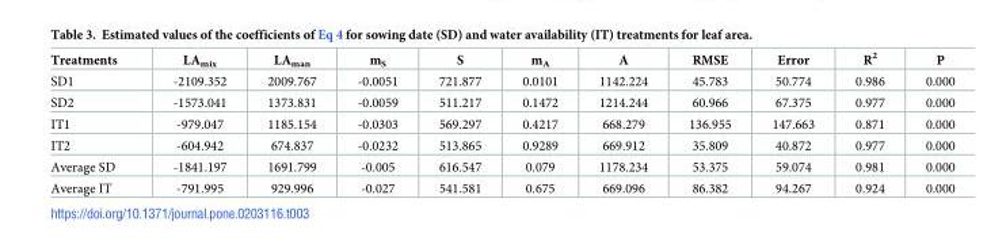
<table><thead><tr><td>Treatments</td><td>LA<sub>mix</sub></td><td>LA<sub>man</sub></td><td>m<sub>S</sub></td><td>S</td><td>m<sub>A</sub></td><td>A</td><td>RMSE</td><td>Error</td><td>R<sup>2</sup></td><td>P</td></tr></thead><tbody><tr><td>SD1</td><td>-2109.352</td><td>2009.767</td><td>-0.0051</td><td>721.877</td><td>0.0101</td><td>1142.224</td><td>45.783</td><td>50.774</td><td>0.986</td><td>0.000</td></tr><tr><td>SD2</td><td>-1573.041</td><td>1373.831</td><td>-0.0059</td><td>511.217</td><td>0.1472</td><td>1214.244</td><td>60.966</td><td>67.375</td><td>0.977</td><td>0.000</td></tr><tr><td>IT1</td><td>-979.047</td><td>1185.154</td><td>-0.0303</td><td>569.297</td><td>0.4217</td><td>668.279</td><td>136.955</td><td>147.663</td><td>0.871</td><td>0.000</td></tr><tr><td>IT2</td><td>-604.942</td><td>674.837</td><td>-0.0232</td><td>513.865</td><td>0.9289</td><td>669.912</td><td>35.809</td><td>40.872</td><td>0.977</td><td>0.000</td></tr><tr><td>Average SD</td><td>-1841.197</td><td>1691.799</td><td>-0.005</td><td>616.547</td><td>0.079</td><td>1178.234</td><td>53.375</td><td>59.074</td><td>0.981</td><td>0.000</td></tr><tr><td>Average IT</td><td>-791.995</td><td>929.996</td><td>-0.027</td><td>541.581</td><td>0.675</td><td>669.096</td><td>86.382</td><td>94.267</td><td>0.924</td><td>0.000</td></tr></tbody></table>